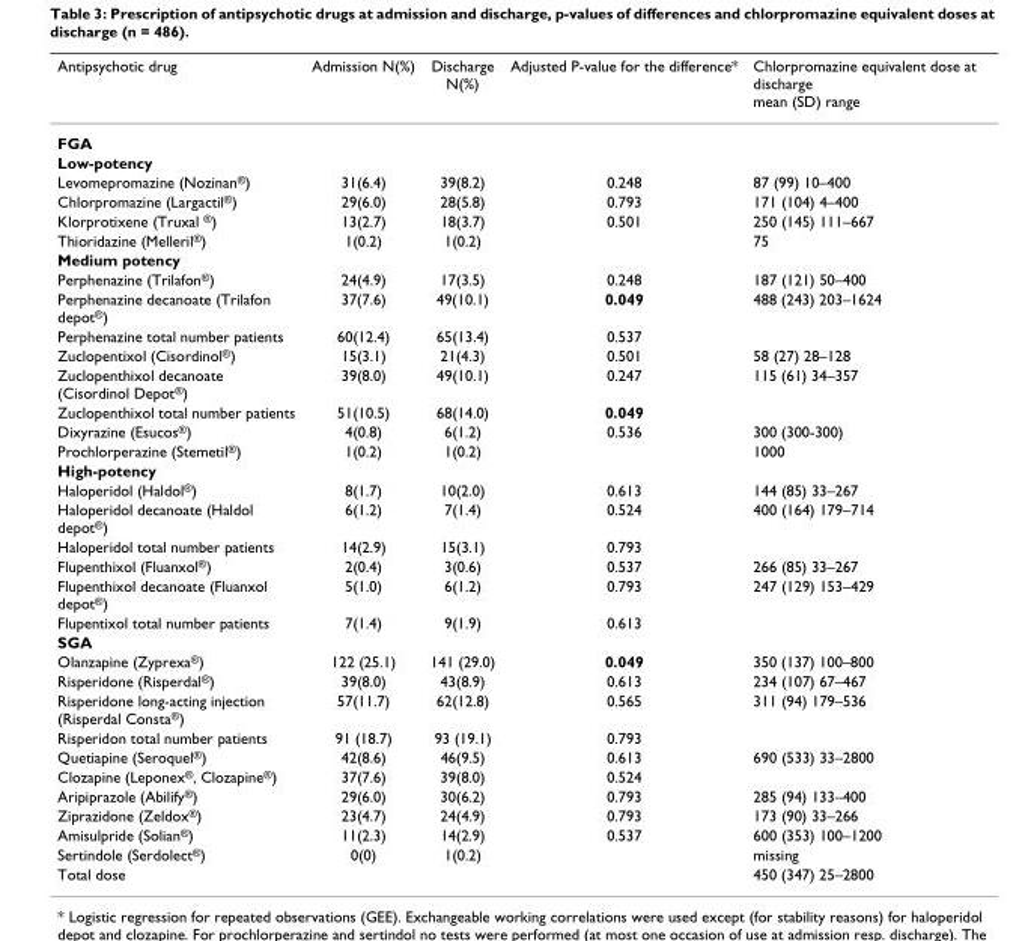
<table><thead><tr><td>Antipsychotic drug</td><td>Admission N(%)</td><td>Discharge N(%)</td><td>Adjusted P-value for the difference*</td><td>Chlorpromazine equivalent dose at discharge mean (SD) range</td></tr></thead><tbody><tr><td colspan="5">FGA</td></tr><tr><td colspan="5">Low-potency</td></tr><tr><td>Levomepromazine (Nozinan<sup>®</sup>)</td><td>31(6.4)</td><td>39(8.2)</td><td>0.248</td><td>87 (99) 10–400</td></tr><tr><td>Chlorpromazine (Largactil<sup>®</sup>)</td><td>29(6.0)</td><td>28(5.8)</td><td>0.793</td><td>171 (104) 4–400</td></tr><tr><td>Klorprotixene (Truxal <sup>®</sup>)</td><td>13(2.7)</td><td>18(3.7)</td><td>0.501</td><td>250 (145) 111–667</td></tr><tr><td>Thioridazine (Melleril<sup>®</sup>)</td><td>1(0.2)</td><td>1(0.2)</td><td></td><td>75</td></tr><tr><td colspan="5">Medium potency</td></tr><tr><td>Perphenazine (Trilafon<sup>®</sup>)</td><td>24(4.9)</td><td>17(3.5)</td><td>0.248</td><td>187 (121) 50–400</td></tr><tr><td>Perphenazine decanoate (Trilafon depot<sup>®</sup>)</td><td>37(7.6)</td><td>49(10.1)</td><td>0.049</td><td>488 (243) 203–1624</td></tr><tr><td>Perphenazine total number patients</td><td>60(12.4)</td><td>65(13.4)</td><td>0.537</td><td></td></tr><tr><td>Zuclopentixol (Cisordinol<sup>®</sup>)</td><td>15(3.1)</td><td>21(4.3)</td><td>0.501</td><td>58 (27) 28–128</td></tr><tr><td>Zuclopenthixol decanoate (Cisordinol Depot<sup>®</sup>)</td><td>39(8.0)</td><td>49(10.1)</td><td>0.247</td><td>115 (61) 34–357</td></tr><tr><td>Zuclopenthixol total number patients</td><td>51(10.5)</td><td>68(14.0)</td><td>0.049</td><td></td></tr><tr><td>Dixyrazine (Esucos<sup>®</sup>)</td><td>4(0.8)</td><td>6(1.2)</td><td>0.536</td><td>300 (300-300)</td></tr><tr><td>Prochlorperazine (Stemetil<sup>®</sup>)</td><td>1(0.2)</td><td>1(0.2)</td><td></td><td>1000</td></tr><tr><td colspan="5">High-potency</td></tr><tr><td>Haloperidol (Haldol<sup>®</sup>)</td><td>8(1.7)</td><td>10(2.0)</td><td>0.613</td><td>144 (85) 33–267</td></tr><tr><td>Haloperidol decanoate (Haldol depot<sup>®</sup>)</td><td>6(1.2)</td><td>7(1.4)</td><td>0.524</td><td>400 (164) 179–714</td></tr><tr><td>Haloperidol total number patients</td><td>14(2.9)</td><td>15(3.1)</td><td>0.793</td><td></td></tr><tr><td>Flupenthixol (Fluanxol<sup>®</sup>)</td><td>2(0.4)</td><td>3(0.6)</td><td>0.537</td><td>266 (85) 33–267</td></tr><tr><td>Flupenthixol decanoate (Fluanxol depot<sup>®</sup>)</td><td>5(1.0)</td><td>6(1.2)</td><td>0.793</td><td>247 (129) 153–429</td></tr><tr><td>Flupentixol total number patients</td><td>7(1.4)</td><td>9(1.9)</td><td>0.613</td><td></td></tr><tr><td colspan="5">SGA</td></tr><tr><td>Olanzapine (Zyprexa<sup>®</sup>)</td><td>122 (25.1)</td><td>141 (29.0)</td><td>0.049</td><td>350 (137) 100–800</td></tr><tr><td>Risperidone (Risperdal<sup>®</sup>)</td><td>39(8.0)</td><td>43(8.9)</td><td>0.613</td><td>234 (107) 67–467</td></tr><tr><td>Risperidone long-acting injection (Risperdal Consta<sup>®</sup>)</td><td>57(11.7)</td><td>62(12.8)</td><td>0.565</td><td>311 (94) 179–536</td></tr><tr><td>Risperidon total number patients</td><td>91 (18.7)</td><td>93 (19.1)</td><td>0.793</td><td></td></tr><tr><td>Quetiapine (Seroquel<sup>®</sup>)</td><td>42(8.6)</td><td>46(9.5)</td><td>0.613</td><td>690 (533) 33–2800</td></tr><tr><td>Clozapine (Leponex<sup>®</sup>, Clozapine<sup>®</sup>)</td><td>37(7.6)</td><td>39(8.0)</td><td>0.524</td><td></td></tr><tr><td>Aripiprazole (Abilify<sup>®</sup>)</td><td>29(6.0)</td><td>30(6.2)</td><td>0.793</td><td>285 (94) 133–400</td></tr><tr><td>Ziprazidone (Zeldox<sup>®</sup>)</td><td>23(4.7)</td><td>24(4.9)</td><td>0.793</td><td>173 (90) 33–266</td></tr><tr><td>Amisulpride (Solian<sup>®</sup>)</td><td>11(2.3)</td><td>14(2.9)</td><td>0.537</td><td>600 (353) 100–1200</td></tr><tr><td>Sertindole (Serdolect<sup>®</sup>)</td><td>0(0)</td><td>1(0.2)</td><td></td><td>missing</td></tr><tr><td>Total dose</td><td></td><td></td><td></td><td>450 (347) 25–2800</td></tr></tbody></table>